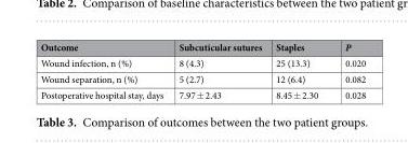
<table><thead><tr><td>Outcome</td><td>Subcuticular sutures</td><td>Staples</td><td>P</td></tr></thead><tbody><tr><td>Wound infection, n (%)</td><td>8 (4.3)</td><td>25 (13.3)</td><td>0.020</td></tr><tr><td>Wound separation, n (%)</td><td>5 (2.7)</td><td>12 (6.4)</td><td>0.082</td></tr><tr><td>Postoperative hospital stay, days</td><td>7.97 ± 2.43</td><td>8.45 ± 2.30</td><td>0.028</td></tr></tbody></table>